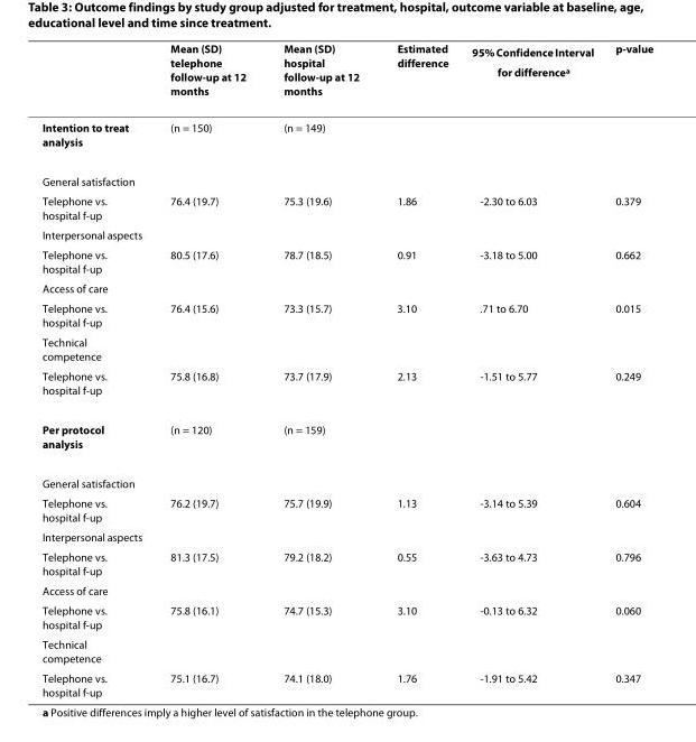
<table><thead><tr><td></td><td>Mean (SD) telephone follow-up at 12 months</td><td>Mean (SD) hospital follow-up at 12 months</td><td>Estimated difference</td><td>95% Confidence Interval for difference<sup>a</sup></td><td>p-value</td></tr></thead><tbody><tr><td>Intention to treat analysis</td><td>(n = 150)</td><td>(n = 149)</td><td></td><td></td><td></td></tr><tr><td colspan="6">General satisfaction</td></tr><tr><td>Telephone vs. hospital f-up</td><td>76.4 (19.7)</td><td>75.3 (19.6)</td><td>1.86</td><td>-2.30 to 6.03</td><td>0.379</td></tr><tr><td colspan="6">Interpersonal aspects</td></tr><tr><td>Telephone vs. hospital f-up</td><td>80.5 (17.6)</td><td>78.7 (18.5)</td><td>0.91</td><td>-3.18 to 5.00</td><td>0.662</td></tr><tr><td colspan="6">Access of care</td></tr><tr><td>Telephone vs. hospital f-up</td><td>76.4 (15.6)</td><td>73.3 (15.7)</td><td>3.10</td><td>.71 to 6.70</td><td>0.015</td></tr><tr><td colspan="6">Technical competence</td></tr><tr><td>Telephone vs. hospital f-up</td><td>75.8 (16.8)</td><td>73.7 (17.9)</td><td>2.13</td><td>-1.51 to 5.77</td><td>0.249</td></tr><tr><td>Per protocol analysis</td><td>(n = 120)</td><td>(n = 159)</td><td></td><td></td><td></td></tr><tr><td colspan="6">General satisfaction</td></tr><tr><td>Telephone vs. hospital f-up</td><td>76.2 (19.7)</td><td>75.7 (19.9)</td><td>1.13</td><td>-3.14 to 5.39</td><td>0.604</td></tr><tr><td colspan="6">Interpersonal aspects</td></tr><tr><td>Telephone vs. hospital f-up</td><td>81.3 (17.5)</td><td>79.2 (18.2)</td><td>0.55</td><td>-3.63 to 4.73</td><td>0.796</td></tr><tr><td colspan="6">Access of care</td></tr><tr><td>Telephone vs. hospital f-up</td><td>75.8 (16.1)</td><td>74.7 (15.3)</td><td>3.10</td><td>-0.13 to 6.32</td><td>0.060</td></tr><tr><td colspan="6">Technical competence</td></tr><tr><td>Telephone vs. hospital f-up</td><td>75.1 (16.7)</td><td>74.1 (18.0)</td><td>1.76</td><td>-1.91 to 5.42</td><td>0.347</td></tr></tbody></table>